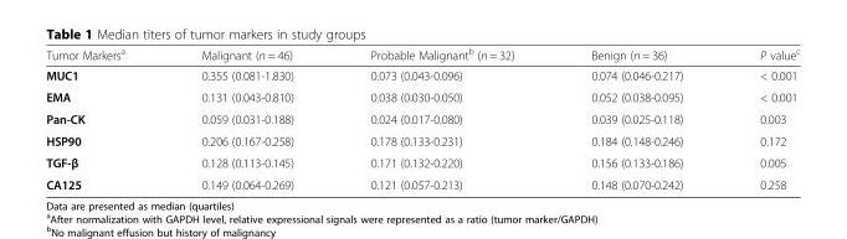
<table><thead><tr><td>Tumor Markers<sup>a</sup></td><td>Malignant (n = 46)</td><td>Probable Malignant<sup>b</sup> (n = 32)</td><td>Benign (n = 36)</td><td>P value<sup>c</sup></td></tr></thead><tbody><tr><td>MUC1</td><td>0.355 (0.081-1.830)</td><td>0.073 (0.043-0.096)</td><td>0.074 (0.046-0.217)</td><td>&lt; 0.001</td></tr><tr><td>EMA</td><td>0.131 (0.043-0.810)</td><td>0.038 (0.030-0.050)</td><td>0.052 (0.038-0.095)</td><td>&lt; 0.001</td></tr><tr><td>Pan-CK</td><td>0.059 (0.031-0.188)</td><td>0.024 (0.017-0.080)</td><td>0.039 (0.025-0.118)</td><td>0.003</td></tr><tr><td>HSP90</td><td>0.206 (0.167-0.258)</td><td>0.178 (0.133-0.231)</td><td>0.184 (0.148-0.246)</td><td>0.172</td></tr><tr><td>TGF-β</td><td>0.128 (0.113-0.145)</td><td>0.171 (0.132-0.220)</td><td>0.156 (0.133-0.186)</td><td>0.005</td></tr><tr><td>CA125</td><td>0.149 (0.064-0.269)</td><td>0.121 (0.057-0.213)</td><td>0.148 (0.070-0.242)</td><td>0.258</td></tr></tbody></table>